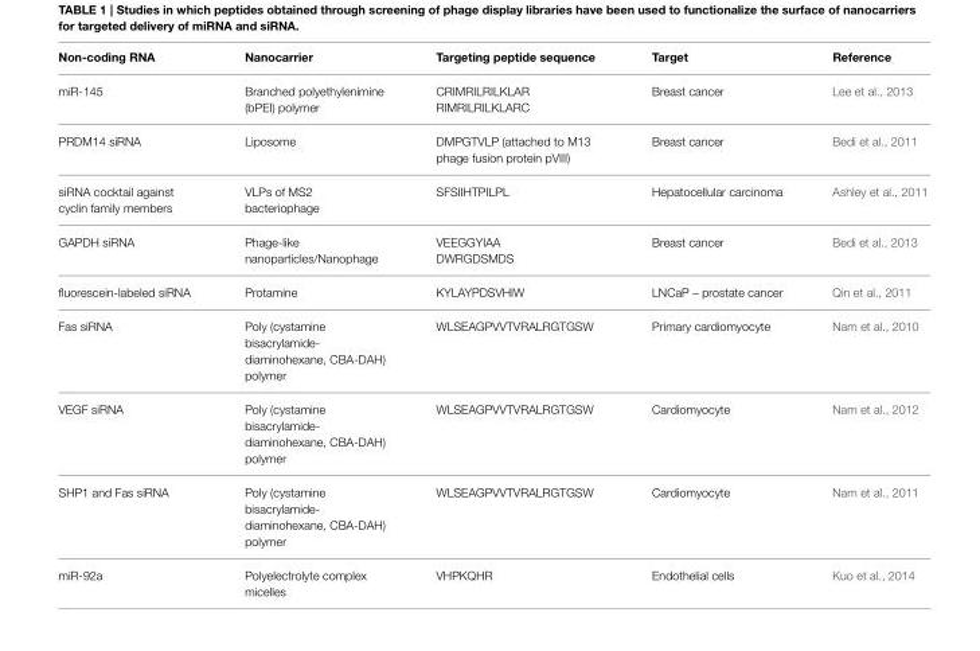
<table><thead><tr><td>Non-coding RNA</td><td>Nanocarrier</td><td>Targeting peptide sequence</td><td>Target</td><td>Reference</td></tr></thead><tbody><tr><td>miR-145</td><td>Branched polyethylenimine (bPEI) polymer</td><td>CRIMRILRILKLAR RIMRILRILKLARC</td><td>Breast cancer</td><td>Lee et al., 2013</td></tr><tr><td>PRDM14 siRNA</td><td>Liposome</td><td>DMPGTVLP (attached to M13 phage fusion protein pVIII)</td><td>Breast cancer</td><td>Bedi et al., 2011</td></tr><tr><td>siRNA cocktail against cyclin family members</td><td>VLPs of MS2 bacteriophage</td><td>SFSIIHTPILPL</td><td>Hepatocellular carcinoma</td><td>Ashley et al., 2011</td></tr><tr><td>GAPDH siRNA</td><td>Phage-like nanoparticles/Nanophage</td><td>VEEGGYIAA DWRGDSMDS</td><td>Breast cancer</td><td>Bedi et al., 2013</td></tr><tr><td>fluorescein-labeled siRNA</td><td>Protamine</td><td>KYLAYPDSVHIW</td><td>LNCaP – prostate cancer</td><td>Qin et al., 2011</td></tr><tr><td>Fas siRNA</td><td>Poly (cystamine bisacrylamide- diaminohexane, CBA-DAH) polymer</td><td>WLSEAGPVVTVRALRGTGSW</td><td>Primary cardiomyocyte</td><td>Nam et al., 2010</td></tr><tr><td>VEGF siRNA</td><td>Poly (cystamine bisacrylamide- diaminohexane, CBA-DAH) polymer</td><td>WLSEAGPVVTVRALRGTGSW</td><td>Cardiomyocyte</td><td>Nam et al., 2012</td></tr><tr><td>SHP1 and Fas siRNA</td><td>Poly (cystamine bisacrylamide- diaminohexane, CBA-DAH) polymer</td><td>WLSEAGPVVTVRALRGTGSW</td><td>Cardiomyocyte</td><td>Nam et al., 2011</td></tr><tr><td>miR-92a</td><td>Polyelectrolyte complex micelles</td><td>VHPKQHR</td><td>Endothelial cells</td><td>Kuo et al., 2014</td></tr></tbody></table>